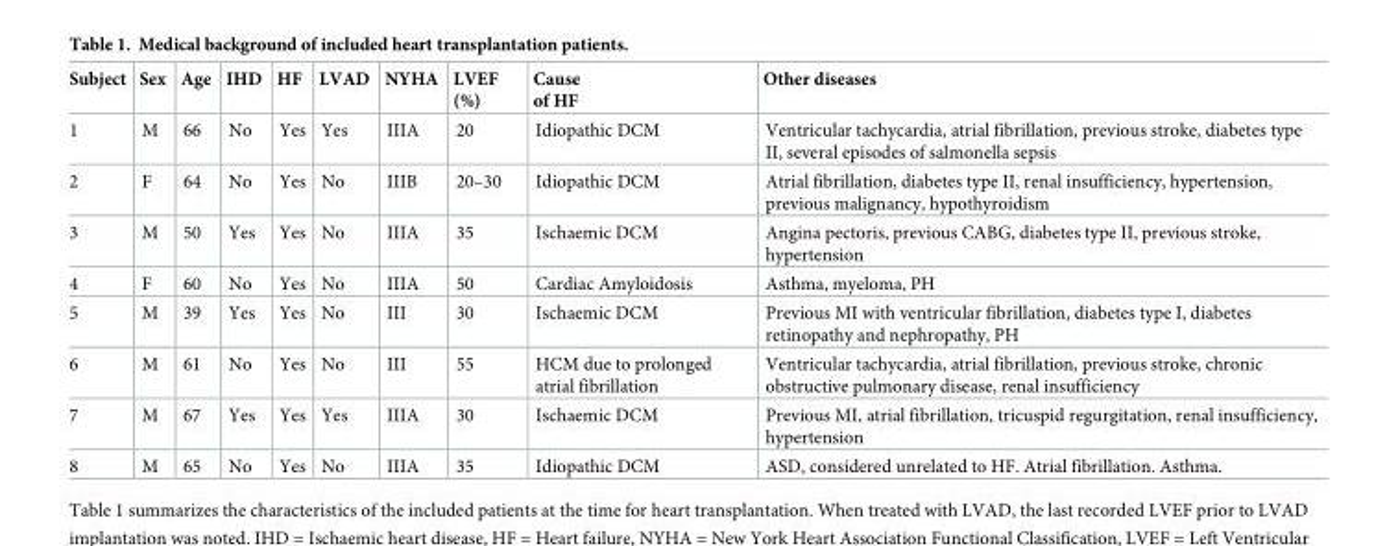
<table><thead><tr><td>Subject</td><td>Sex</td><td>Age</td><td>IHD</td><td>HF</td><td>LVAD</td><td>NYHA</td><td>LVEF (%)</td><td>Cause of HF</td><td>Other diseases</td></tr></thead><tbody><tr><td>1</td><td>M</td><td>66</td><td>No</td><td>Yes</td><td>Yes</td><td>IIIA</td><td>20</td><td>Idiopathic DCM</td><td>Ventricular tachycardia, atrial fibrillation, previous stroke, diabetes type II, several episodes of salmonella sepsis</td></tr><tr><td>2</td><td>F</td><td>64</td><td>No</td><td>Yes</td><td>No</td><td>IIIB</td><td>20–30</td><td>Idiopathic DCM</td><td>Atrial fibrillation, diabetes type II, renal insufficiency, hypertension, previous malignancy, hypothyroidism</td></tr><tr><td>3</td><td>M</td><td>50</td><td>Yes</td><td>Yes</td><td>No</td><td>IIIA</td><td>35</td><td>Ischaemic DCM</td><td>Angina pectoris, previous CABG, diabetes type II, previous stroke, hypertension</td></tr><tr><td>4</td><td>F</td><td>60</td><td>No</td><td>Yes</td><td>No</td><td>IIIA</td><td>50</td><td>Cardiac Amyloidosis</td><td>Asthma, myeloma, PH</td></tr><tr><td>5</td><td>M</td><td>39</td><td>Yes</td><td>Yes</td><td>No</td><td>III</td><td>30</td><td>Ischaemic DCM</td><td>Previous MI with ventricular fibrillation, diabetes type I, diabetes retinopathy and nephropathy, PH</td></tr><tr><td>6</td><td>M</td><td>61</td><td>No</td><td>Yes</td><td>No</td><td>III</td><td>55</td><td>HCM due to prolonged atrial fibrillation</td><td>Ventricular tachycardia, atrial fibrillation, previous stroke, chronic obstructive pulmonary disease, renal insufficiency</td></tr><tr><td>7</td><td>M</td><td>67</td><td>Yes</td><td>Yes</td><td>Yes</td><td>IIIA</td><td>30</td><td>Ischaemic DCM</td><td>Previous MI, atrial fibrillation, tricuspid regurgitation, renal insufficiency, hypertension</td></tr><tr><td>8</td><td>M</td><td>65</td><td>No</td><td>Yes</td><td>No</td><td>IIIA</td><td>35</td><td>Idiopathic DCM</td><td>ASD, considered unrelated to HF. Atrial fibrillation. Asthma.</td></tr></tbody></table>